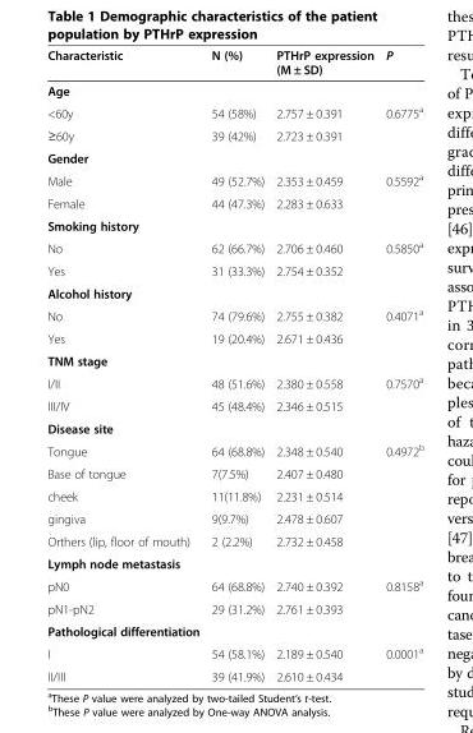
<table><thead><tr><td>Characteristic</td><td>N (%)</td><td>PTHrP expression (M ± SD)</td><td>P</td></tr></thead><tbody><tr><td colspan="4">Age</td></tr><tr><td>&lt;60y</td><td>54 (58%)</td><td>2.757 ± 0.391</td><td>0.6775<sup>a</sup></td></tr><tr><td>≥60y</td><td>39 (42%)</td><td>2.723 ± 0.391</td><td></td></tr><tr><td colspan="4">Gender</td></tr><tr><td>Male</td><td>49 (52.7%)</td><td>2.353 ± 0.459</td><td>0.5592<sup>a</sup></td></tr><tr><td>Female</td><td>44 (47.3%)</td><td>2.283 ± 0.633</td><td></td></tr><tr><td colspan="4">Smoking history</td></tr><tr><td>No</td><td>62 (66.7%)</td><td>2.706 ± 0.460</td><td>0.5850<sup>a</sup></td></tr><tr><td>Yes</td><td>31 (33.3%)</td><td>2.754 ± 0.352</td><td></td></tr><tr><td colspan="4">Alcohol history</td></tr><tr><td>No</td><td>74 (79.6%)</td><td>2.755 ± 0.382</td><td>0.4071<sup>a</sup></td></tr><tr><td>Yes</td><td>19 (20.4%)</td><td>2.671 ± 0.436</td><td></td></tr><tr><td colspan="4">TNM stage</td></tr><tr><td>I/II</td><td>48 (51.6%)</td><td>2.380 ± 0.558</td><td>0.7570<sup>a</sup></td></tr><tr><td>III/IV</td><td>45 (48.4%)</td><td>2.346 ± 0.515</td><td></td></tr><tr><td colspan="4">Disease site</td></tr><tr><td>Tongue</td><td>64 (68.8%)</td><td>2.348 ± 0.540</td><td>0.4972<sup>b</sup></td></tr><tr><td>Base of tongue</td><td>7(7.5%)</td><td>2.407 ± 0.480</td><td></td></tr><tr><td>cheek</td><td>11(11.8%)</td><td>2.231 ± 0.514</td><td></td></tr><tr><td>gingiva</td><td>9(9.7%)</td><td>2.478 ± 0.607</td><td></td></tr><tr><td>Orthers (lip, floor of mouth)</td><td>2 (2.2%)</td><td>2.732 ± 0.458</td><td></td></tr><tr><td colspan="4">Lymph node metastasis</td></tr><tr><td>pN0</td><td>64 (68.8%)</td><td>2.740 ± 0.392</td><td>0.8158<sup>a</sup></td></tr><tr><td>pN1-pN2</td><td>29 (31.2%)</td><td>2.761 ± 0.393</td><td></td></tr><tr><td colspan="4">Pathological differentiation</td></tr><tr><td>I</td><td>54 (58.1%)</td><td>2.189 ± 0.540</td><td>0.0001<sup>a</sup></td></tr><tr><td>II/III</td><td>39 (41.9%)</td><td>2.610 ± 0.434</td><td></td></tr></tbody></table>